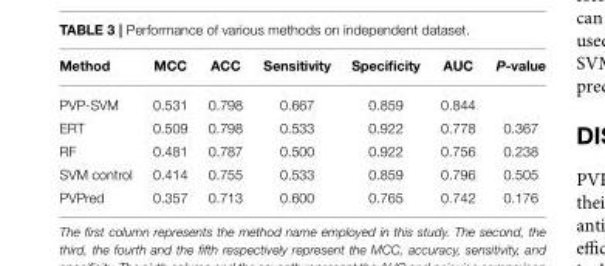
<table><thead><tr><td>Method</td><td>MCC</td><td>ACC</td><td>Sensitivity</td><td>Specificity</td><td>AUC</td><td>P-value</td></tr></thead><tbody><tr><td>PVP-SVM</td><td>0.531</td><td>0.798</td><td>0.667</td><td>0.859</td><td>0.844</td><td></td></tr><tr><td>ERT</td><td>0.509</td><td>0.798</td><td>0.533</td><td>0.922</td><td>0.778</td><td>0.367</td></tr><tr><td>RF</td><td>0.481</td><td>0.787</td><td>0.500</td><td>0.922</td><td>0.756</td><td>0.238</td></tr><tr><td>SVM control</td><td>0.414</td><td>0.755</td><td>0.533</td><td>0.859</td><td>0.796</td><td>0.505</td></tr><tr><td>PVPred</td><td>0.357</td><td>0.713</td><td>0.600</td><td>0.765</td><td>0.742</td><td>0.176</td></tr></tbody></table>